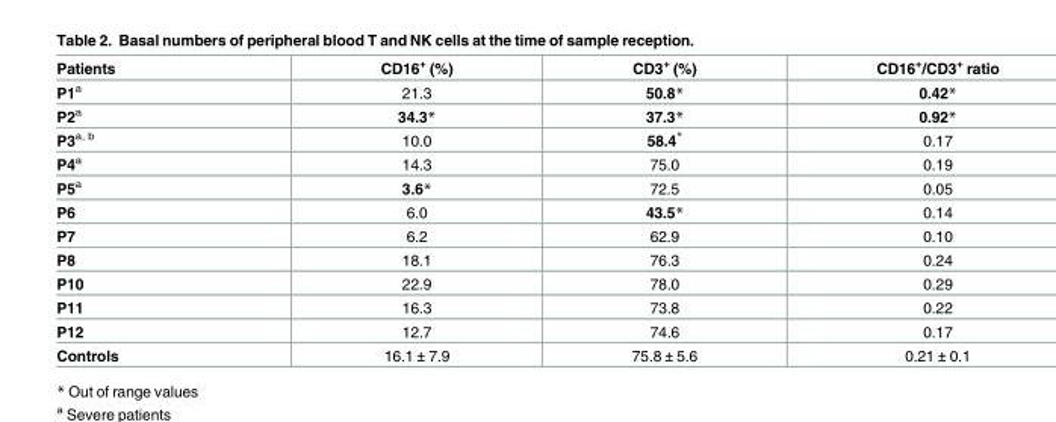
<table><thead><tr><td>Patients</td><td>CD16<sup>+</sup> (%)</td><td>CD3<sup>+</sup> (%)</td><td>CD16<sup>+</sup>/CD3<sup>+</sup> ratio</td></tr></thead><tbody><tr><td>P1<sup>a</sup></td><td>21.3</td><td>50.8*</td><td>0.42*</td></tr><tr><td>P2<sup>a</sup></td><td>34.3*</td><td>37.3*</td><td>0.92*</td></tr><tr><td>P3<sup>a, b</sup></td><td>10.0</td><td>58.4*</td><td>0.17</td></tr><tr><td>P4<sup>a</sup></td><td>14.3</td><td>75.0</td><td>0.19</td></tr><tr><td>P5<sup>a</sup></td><td>3.6*</td><td>72.5</td><td>0.05</td></tr><tr><td>P6</td><td>6.0</td><td>43.5*</td><td>0.14</td></tr><tr><td>P7</td><td>6.2</td><td>62.9</td><td>0.10</td></tr><tr><td>P8</td><td>18.1</td><td>76.3</td><td>0.24</td></tr><tr><td>P10</td><td>22.9</td><td>78.0</td><td>0.29</td></tr><tr><td>P11</td><td>16.3</td><td>73.8</td><td>0.22</td></tr><tr><td>P12</td><td>12.7</td><td>74.6</td><td>0.17</td></tr><tr><td>Controls</td><td>16.1 ± 7.9</td><td>75.8 ± 5.6</td><td>0.21 ± 0.1</td></tr></tbody></table>